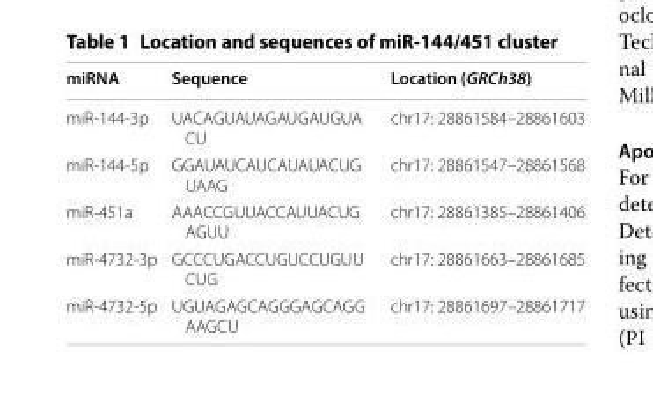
<table><thead><tr><td>miRNA</td><td>Sequence</td><td>Location (GRCh38)</td></tr></thead><tbody><tr><td>miR-144-3p</td><td>UAC AGU AUA GAU GAU GUA CU</td><td>chr17: 28861584–28861603</td></tr><tr><td>miR-144-5p</td><td>GGA UAU CAU CAU AUA CUG UAAG</td><td>chr17: 28861547–28861568</td></tr><tr><td>miR-451a</td><td>AAA CCG UUA CCA UUA CUG AGUU</td><td>chr17: 28861385–28861406</td></tr><tr><td>miR-4732-3p</td><td>GCC CUG ACC UGU CCU GUU CUG</td><td>chr17: 28861663–28861685</td></tr><tr><td>miR-4732-5p</td><td>UGU AGA GCA GGG AGC AGG AAGCU</td><td>chr17: 28861697–28861717</td></tr></tbody></table>